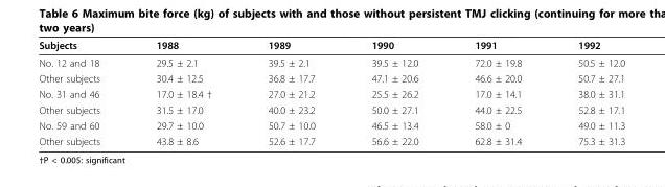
<table><thead><tr><td>Subjects</td><td>1988</td><td>1989</td><td>1990</td><td>1991</td><td>1992</td></tr></thead><tbody><tr><td>No. 12 and 18</td><td>29.5 ± 2.1</td><td>39.5 ± 2.1</td><td>39.5 ± 12.0</td><td>72.0 ± 19.8</td><td>50.5 ± 12.0</td></tr><tr><td>Other subjects</td><td>30.4 ± 12.5</td><td>36.8 ± 17.7</td><td>47.1 ± 20.6</td><td>46.6 ± 20.0</td><td>50.7 ± 27.1</td></tr><tr><td>No. 31 and 46</td><td>17.0 ± 18.4 †</td><td>27.0 ± 21.2</td><td>25.5 ± 26.2</td><td>17.0 ± 14.1</td><td>38.0 ± 31.1</td></tr><tr><td>Other subjects</td><td>31.5 ± 17.0</td><td>40.0 ± 23.2</td><td>50.0 ± 27.1</td><td>44.0 ± 22.5</td><td>52.8 ± 17.1</td></tr><tr><td>No. 59 and 60</td><td>29.7 ± 10.0</td><td>50.7 ± 10.0</td><td>46.5 ± 13.4</td><td>58.0 ± 0</td><td>49.0 ± 11.3</td></tr><tr><td>Other subjects</td><td>43.8 ± 8.6</td><td>52.6 ± 17.7</td><td>56.6 ± 22.0</td><td>62.8 ± 31.4</td><td>75.3 ± 31.3</td></tr></tbody></table>